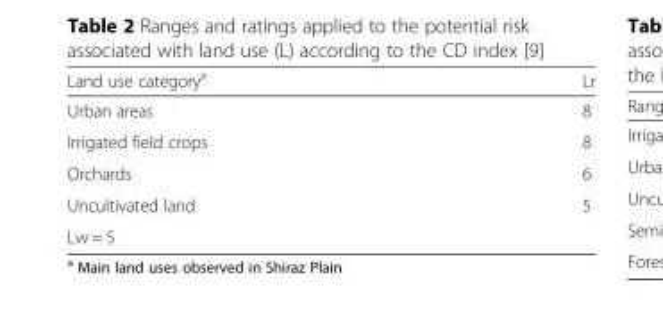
<table><thead><tr><td>Land use category<sup>a</sup></td><td>Lr</td></tr></thead><tbody><tr><td>Urban areas</td><td>8</td></tr><tr><td>Irrigated field crops</td><td>8</td></tr><tr><td>Orchards</td><td>6</td></tr><tr><td>Uncultivated land</td><td>5</td></tr><tr><td>Lw = 5</td><td></td></tr></tbody></table>